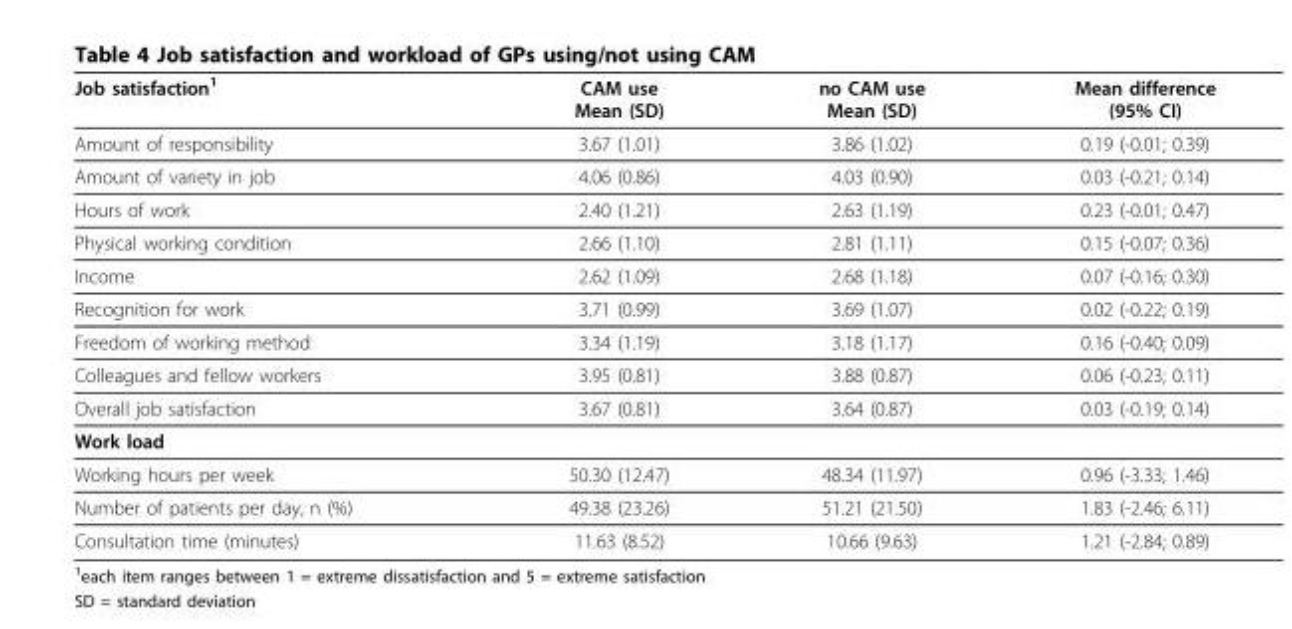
<table><thead><tr><td>Job satisfaction<sup>1</sup></td><td>CAM use Mean (SD)</td><td>no CAM use Mean (SD)</td><td>Mean difference (95% CI)</td></tr></thead><tbody><tr><td>Amount of responsibility</td><td>3.67 (1.01)</td><td>3.86 (1.02)</td><td>0.19 (-0.01; 0.39)</td></tr><tr><td>Amount of variety in job</td><td>4.06 (0.86)</td><td>4.03 (0.90)</td><td>0.03 (-0.21; 0.14)</td></tr><tr><td>Hours of work</td><td>2.40 (1.21)</td><td>2.63 (1.19)</td><td>0.23 (-0.01; 0.47)</td></tr><tr><td>Physical working condition</td><td>2.66 (1.10)</td><td>2.81 (1.11)</td><td>0.15 (-0.07; 0.36)</td></tr><tr><td>Income</td><td>2.62 (1.09)</td><td>2.68 (1.18)</td><td>0.07 (-0.16; 0.30)</td></tr><tr><td>Recognition for work</td><td>3.71 (0.99)</td><td>3.69 (1.07)</td><td>0.02 (-0.22; 0.19)</td></tr><tr><td>Freedom of working method</td><td>3.34 (1.19)</td><td>3.18 (1.17)</td><td>0.16 (-0.40; 0.09)</td></tr><tr><td>Colleagues and fellow workers</td><td>3.95 (0.81)</td><td>3.88 (0.87)</td><td>0.06 (-0.23; 0.11)</td></tr><tr><td>Overall job satisfaction</td><td>3.67 (0.81)</td><td>3.64 (0.87)</td><td>0.03 (-0.19; 0.14)</td></tr><tr><td colspan="4">Work load</td></tr><tr><td>Working hours per week</td><td>50.30 (12.47)</td><td>48.34 (11.97)</td><td>0.96 (-3.33; 1.46)</td></tr><tr><td>Number of patients per day, n (%)</td><td>49.38 (23.26)</td><td>51.21 (21.50)</td><td>1.83 (-2.46; 6.11)</td></tr><tr><td>Consultation time (minutes)</td><td>11.63 (8.52)</td><td>10.66 (9.63)</td><td>1.21 (-2.84; 0.89)</td></tr></tbody></table>